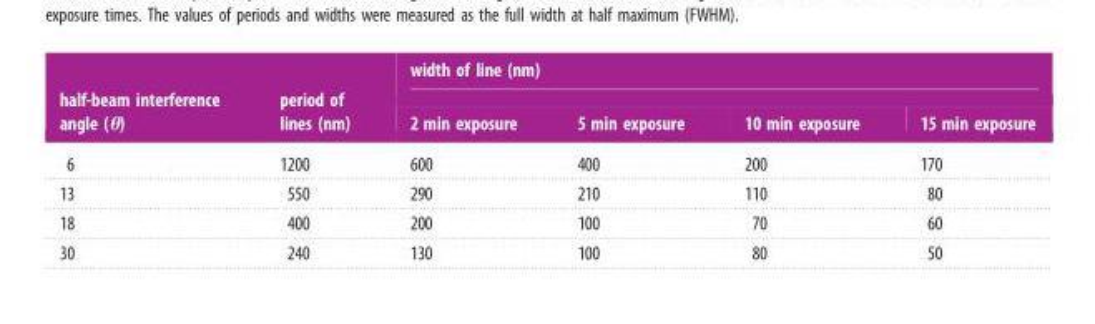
<table><thead><tr><td rowspan="2">half-beam interference angle (θ)</td><td rowspan="2">period of lines (nm)</td><td colspan="4">width of line (nm)</td></tr><tr><td>2 min exposure</td><td>5 min exposure</td><td>10 min exposure</td><td>15 min exposure</td></tr></thead><tbody><tr><td>6</td><td>1200</td><td>600</td><td>400</td><td>200</td><td>170</td></tr><tr><td>13</td><td>550</td><td>290</td><td>210</td><td>110</td><td>80</td></tr><tr><td>18</td><td>400</td><td>200</td><td>100</td><td>70</td><td>60</td></tr><tr><td>30</td><td>240</td><td>130</td><td>100</td><td>80</td><td>50</td></tr></tbody></table>